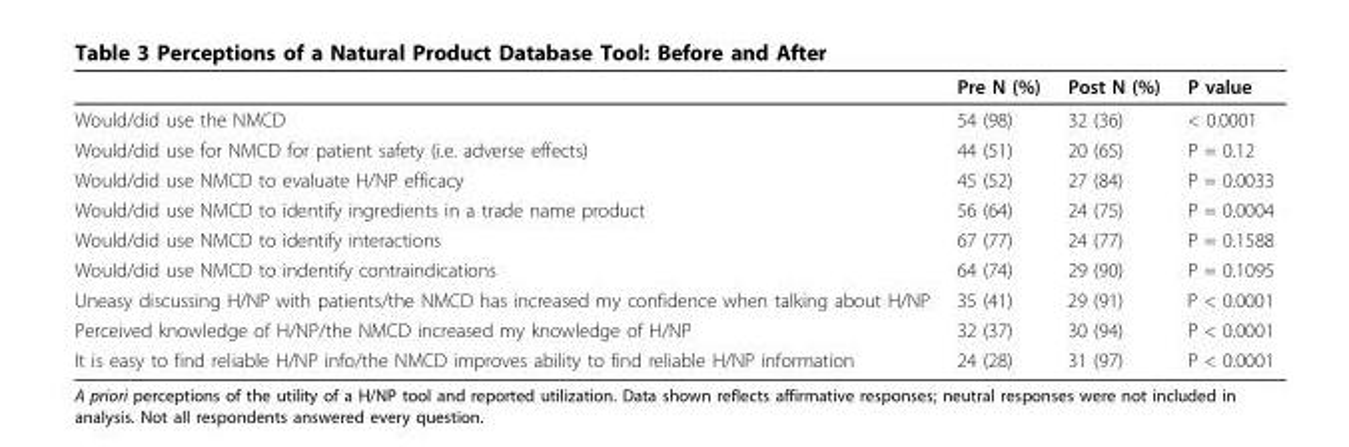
<table><thead><tr><td></td><td>Pre N (%)</td><td>Post N (%)</td><td>P value</td></tr></thead><tbody><tr><td>Would/did use the NMCD</td><td>54 (98)</td><td>32 (36)</td><td>&lt; 0.0001</td></tr><tr><td>Would/did use for NMCD for patient safety (i.e. adverse effects)</td><td>44 (51)</td><td>20 (65)</td><td>P = 0.12</td></tr><tr><td>Would/did use NMCD to evaluate H/NP efficacy</td><td>45 (52)</td><td>27 (84)</td><td>P = 0.0033</td></tr><tr><td>Would/did use NMCD to identify ingredients in a trade name product</td><td>56 (64)</td><td>24 (75)</td><td>P = 0.0004</td></tr><tr><td>Would/did use NMCD to identify interactions</td><td>67 (77)</td><td>24 (77)</td><td>P = 0.1588</td></tr><tr><td>Would/did use NMCD to indentify contraindications</td><td>64 (74)</td><td>29 (90)</td><td>P = 0.1095</td></tr><tr><td>Uneasy discussing H/NP with patients/the NMCD has increased my confidence when talking about H/NP</td><td>35 (41)</td><td>29 (91)</td><td>P &lt; 0.0001</td></tr><tr><td>Perceived knowledge of H/NP/the NMCD increased my knowledge of H/NP</td><td>32 (37)</td><td>30 (94)</td><td>P &lt; 0.0001</td></tr><tr><td>It is easy to find reliable H/NP info/the NMCD improves ability to find reliable H/NP information</td><td>24 (28)</td><td>31 (97)</td><td>P &lt; 0.0001</td></tr></tbody></table>